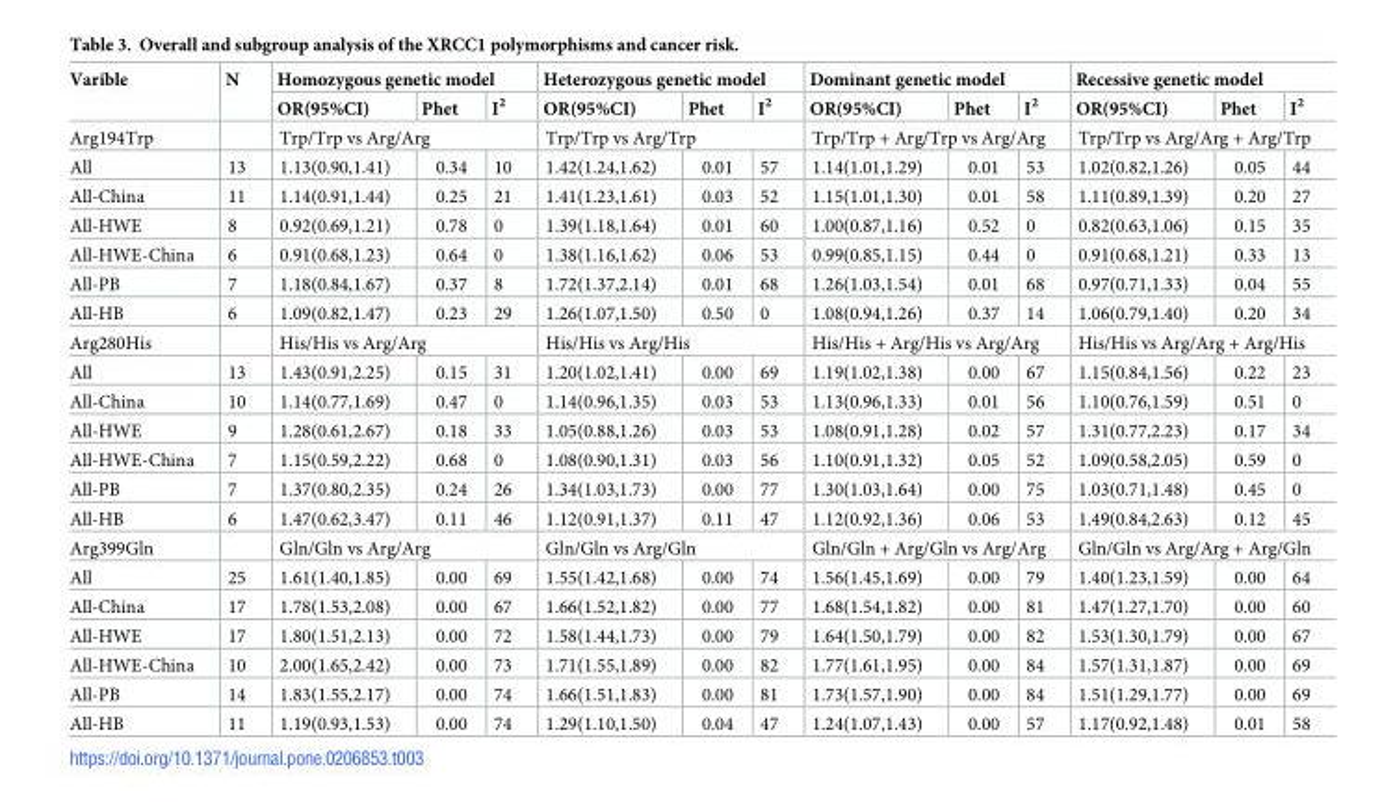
<table><thead><tr><td rowspan="2">Varible</td><td rowspan="2">N</td><td colspan="3">Homozygous genetic model</td><td colspan="3">Heterozygous genetic model</td><td colspan="3">Dominant genetic model</td><td colspan="3">Recessive genetic model</td></tr><tr><td>OR(95%CI)</td><td>Phet</td><td>I<sup>2</sup></td><td>OR(95%CI)</td><td>Phet</td><td>I<sup>2</sup></td><td>OR(95%CI)</td><td>Phet</td><td>I<sup>2</sup></td><td>OR(95%CI)</td><td>Phet</td><td>I<sup>2</sup></td></tr></thead><tbody><tr><td>Arg194Trp</td><td></td><td colspan="3">Trp/Trp vs Arg/Arg</td><td colspan="3">Trp/Trp vs Arg/Trp</td><td colspan="3">Trp/Trp + Arg/Trp vs Arg/Arg</td><td colspan="3">Trp/Trp vs Arg/Arg + Arg/Trp</td></tr><tr><td>All</td><td>13</td><td>1.13(0.90,1.41)</td><td>0.34</td><td>10</td><td>1.42(1.24,1.62)</td><td>0.01</td><td>57</td><td>1.14(1.01,1.29)</td><td>0.01</td><td>53</td><td>1.02(0.82,1.26)</td><td>0.05</td><td>44</td></tr><tr><td>All-China</td><td>11</td><td>1.14(0.91,1.44)</td><td>0.25</td><td>21</td><td>1.41(1.23,1.61)</td><td>0.03</td><td>52</td><td>1.15(1.01,1.30)</td><td>0.01</td><td>58</td><td>1.11(0.89,1.39)</td><td>0.20</td><td>27</td></tr><tr><td>All-HWE</td><td>8</td><td>0.92(0.69,1.21)</td><td>0.78</td><td>0</td><td>1.39(1.18,1.64)</td><td>0.01</td><td>60</td><td>1.00(0.87,1.16)</td><td>0.52</td><td>0</td><td>0.82(0.63,1.06)</td><td>0.15</td><td>35</td></tr><tr><td>All-HWE-China</td><td>6</td><td>0.91(0.68,1.23)</td><td>0.64</td><td>0</td><td>1.38(1.16,1.62)</td><td>0.06</td><td>53</td><td>0.99(0.85,1.15)</td><td>0.44</td><td>0</td><td>0.91(0.68,1.21)</td><td>0.33</td><td>13</td></tr><tr><td>All-PB</td><td>7</td><td>1.18(0.84,1.67)</td><td>0.37</td><td>8</td><td>1.72(1.37,2.14)</td><td>0.01</td><td>68</td><td>1.26(1.03,1.54)</td><td>0.01</td><td>68</td><td>0.97(0.71,1.33)</td><td>0.04</td><td>55</td></tr><tr><td>All-HB</td><td>6</td><td>1.09(0.82,1.47)</td><td>0.23</td><td>29</td><td>1.26(1.07,1.50)</td><td>0.50</td><td>0</td><td>1.08(0.94,1.26)</td><td>0.37</td><td>14</td><td>1.06(0.79,1.40)</td><td>0.20</td><td>34</td></tr><tr><td>Arg280His</td><td></td><td colspan="3">His/His vs Arg/Arg</td><td colspan="3">His/His vs Arg/His</td><td colspan="3">His/His + Arg/His vs Arg/Arg</td><td colspan="3">His/His vs Arg/Arg + Arg/His</td></tr><tr><td>All</td><td>13</td><td>1.43(0.91,2.25)</td><td>0.15</td><td>31</td><td>1.20(1.02,1.41)</td><td>0.00</td><td>69</td><td>1.19(1.02,1.38)</td><td>0.00</td><td>67</td><td>1.15(0.84,1.56)</td><td>0.22</td><td>23</td></tr><tr><td>All-China</td><td>10</td><td>1.14(0.77,1.69)</td><td>0.47</td><td>0</td><td>1.14(0.96,1.35)</td><td>0.03</td><td>53</td><td>1.13(0.96,1.33)</td><td>0.01</td><td>56</td><td>1.10(0.76,1.59)</td><td>0.51</td><td>0</td></tr><tr><td>All-HWE</td><td>9</td><td>1.28(0.61,2.67)</td><td>0.18</td><td>33</td><td>1.05(0.88,1.26)</td><td>0.03</td><td>53</td><td>1.08(0.91,1.28)</td><td>0.02</td><td>57</td><td>1.31(0.77,2.23)</td><td>0.17</td><td>34</td></tr><tr><td>All-HWE-China</td><td>7</td><td>1.15(0.59,2.22)</td><td>0.68</td><td>0</td><td>1.08(0.90,1.31)</td><td>0.03</td><td>56</td><td>1.10(0.91,1.32)</td><td>0.05</td><td>52</td><td>1.09(0.58,2.05)</td><td>0.59</td><td>0</td></tr><tr><td>All-PB</td><td>7</td><td>1.37(0.80,2.35)</td><td>0.24</td><td>26</td><td>1.34(1.03,1.73)</td><td>0.00</td><td>77</td><td>1.30(1.03,1.64)</td><td>0.00</td><td>75</td><td>1.03(0.71,1.48)</td><td>0.45</td><td>0</td></tr><tr><td>All-HB</td><td>6</td><td>1.47(0.62,3.47)</td><td>0.11</td><td>46</td><td>1.12(0.91,1.37)</td><td>0.11</td><td>47</td><td>1.12(0.92,1.36)</td><td>0.06</td><td>53</td><td>1.49(0.84,2.63)</td><td>0.12</td><td>45</td></tr><tr><td>Arg399Gln</td><td></td><td colspan="3">Gln/Gln vs Arg/Arg</td><td colspan="3">Gln/Gln vs Arg/Gln</td><td colspan="3">Gln/Gln + Arg/Gln vs Arg/Arg</td><td colspan="3">Gln/Gln vs Arg/Arg + Arg/Gln</td></tr><tr><td>All</td><td>25</td><td>1.61(1.40,1.85)</td><td>0.00</td><td>69</td><td>1.55(1.42,1.68)</td><td>0.00</td><td>74</td><td>1.56(1.45,1.69)</td><td>0.00</td><td>79</td><td>1.40(1.23,1.59)</td><td>0.00</td><td>64</td></tr><tr><td>All-China</td><td>17</td><td>1.78(1.53,2.08)</td><td>0.00</td><td>67</td><td>1.66(1.52,1.82)</td><td>0.00</td><td>77</td><td>1.68(1.54,1.82)</td><td>0.00</td><td>81</td><td>1.47(1.27,1.70)</td><td>0.00</td><td>60</td></tr><tr><td>All-HWE</td><td>17</td><td>1.80(1.51,2.13)</td><td>0.00</td><td>72</td><td>1.58(1.44,1.73)</td><td>0.00</td><td>79</td><td>1.64(1.50,1.79)</td><td>0.00</td><td>82</td><td>1.53(1.30,1.79)</td><td>0.00</td><td>67</td></tr><tr><td>All-HWE-China</td><td>10</td><td>2.00(1.65,2.42)</td><td>0.00</td><td>73</td><td>1.71(1.55,1.89)</td><td>0.00</td><td>82</td><td>1.77(1.61,1.95)</td><td>0.00</td><td>84</td><td>1.57(1.31,1.87)</td><td>0.00</td><td>69</td></tr><tr><td>All-PB</td><td>14</td><td>1.83(1.55,2.17)</td><td>0.00</td><td>74</td><td>1.66(1.51,1.83)</td><td>0.00</td><td>81</td><td>1.73(1.57,1.90)</td><td>0.00</td><td>84</td><td>1.51(1.29,1.77)</td><td>0.00</td><td>69</td></tr><tr><td>All-HB</td><td>11</td><td>1.19(0.93,1.53)</td><td>0.00</td><td>74</td><td>1.29(1.10,1.50)</td><td>0.04</td><td>47</td><td>1.24(1.07,1.43)</td><td>0.00</td><td>57</td><td>1.17(0.92,1.48)</td><td>0.01</td><td>58</td></tr></tbody></table>